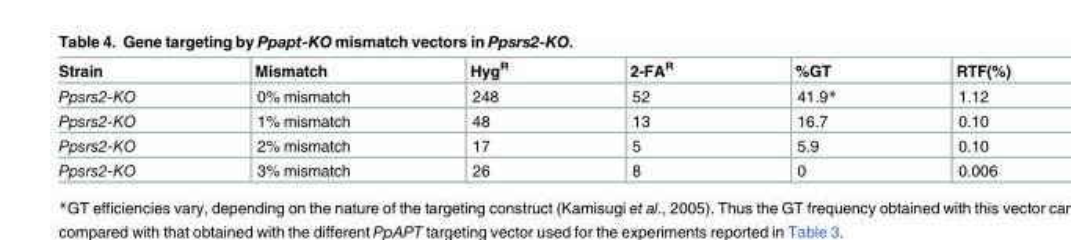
<table><thead><tr><td>Strain</td><td>Mismatch</td><td>Hyg<sup>R</sup></td><td>2-FA<sup>R</sup></td><td>%GT</td><td>RTF(%)</td></tr></thead><tbody><tr><td>Ppsrs2-KO</td><td>0% mismatch</td><td>248</td><td>52</td><td>41.9*</td><td>1.12</td></tr><tr><td>Ppsrs2-KO</td><td>1% mismatch</td><td>48</td><td>13</td><td>16.7</td><td>0.10</td></tr><tr><td>Ppsrs2-KO</td><td>2% mismatch</td><td>17</td><td>5</td><td>5.9</td><td>0.10</td></tr><tr><td>Ppsrs2-KO</td><td>3% mismatch</td><td>26</td><td>8</td><td>0</td><td>0.006</td></tr></tbody></table>